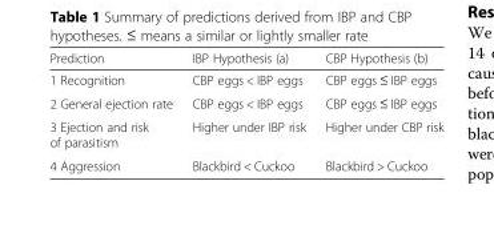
<table><thead><tr><td>Prediction</td><td>IBP Hypothesis (a)</td><td>CBP Hypothesis (b)</td></tr></thead><tbody><tr><td>1 Recognition</td><td>CBP eggs &lt; IBP eggs</td><td>CBP eggs ≤ IBP eggs</td></tr><tr><td>2 General ejection rate</td><td>CBP eggs &lt; IBP eggs</td><td>CBP eggs ≤ IBP eggs</td></tr><tr><td>3 Ejection and risk of parasitism</td><td>Higher under IBP risk</td><td>Higher under CBP risk</td></tr><tr><td>4 Aggression</td><td>Blackbird &lt; Cuckoo</td><td>Blackbird &gt; Cuckoo</td></tr></tbody></table>